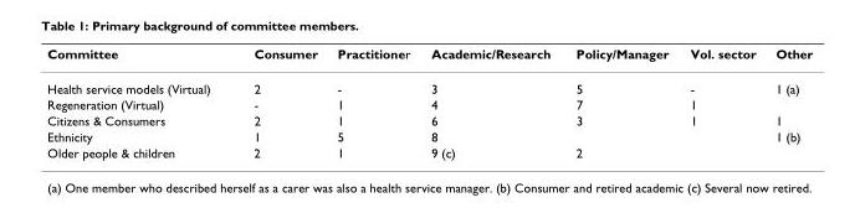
<table><thead><tr><td>Committee</td><td>Consumer</td><td>Practitioner</td><td>Academic/Research</td><td>Policy/Manager</td><td>Vol. sector</td><td>Other</td></tr></thead><tbody><tr><td>Health service models (Virtual)</td><td>2</td><td>-</td><td>3</td><td>5</td><td>-</td><td>1 (a)</td></tr><tr><td>Regeneration (Virtual)</td><td>-</td><td>1</td><td>4</td><td>7</td><td>1</td><td></td></tr><tr><td>Citizens &amp; Consumers</td><td>2</td><td>1</td><td>6</td><td>3</td><td>1</td><td>1</td></tr><tr><td>Ethnicity</td><td>1</td><td>5</td><td>8</td><td></td><td></td><td>1 (b)</td></tr><tr><td>Older people &amp; children</td><td>2</td><td>1</td><td>9 (c)</td><td>2</td><td></td><td></td></tr></tbody></table>